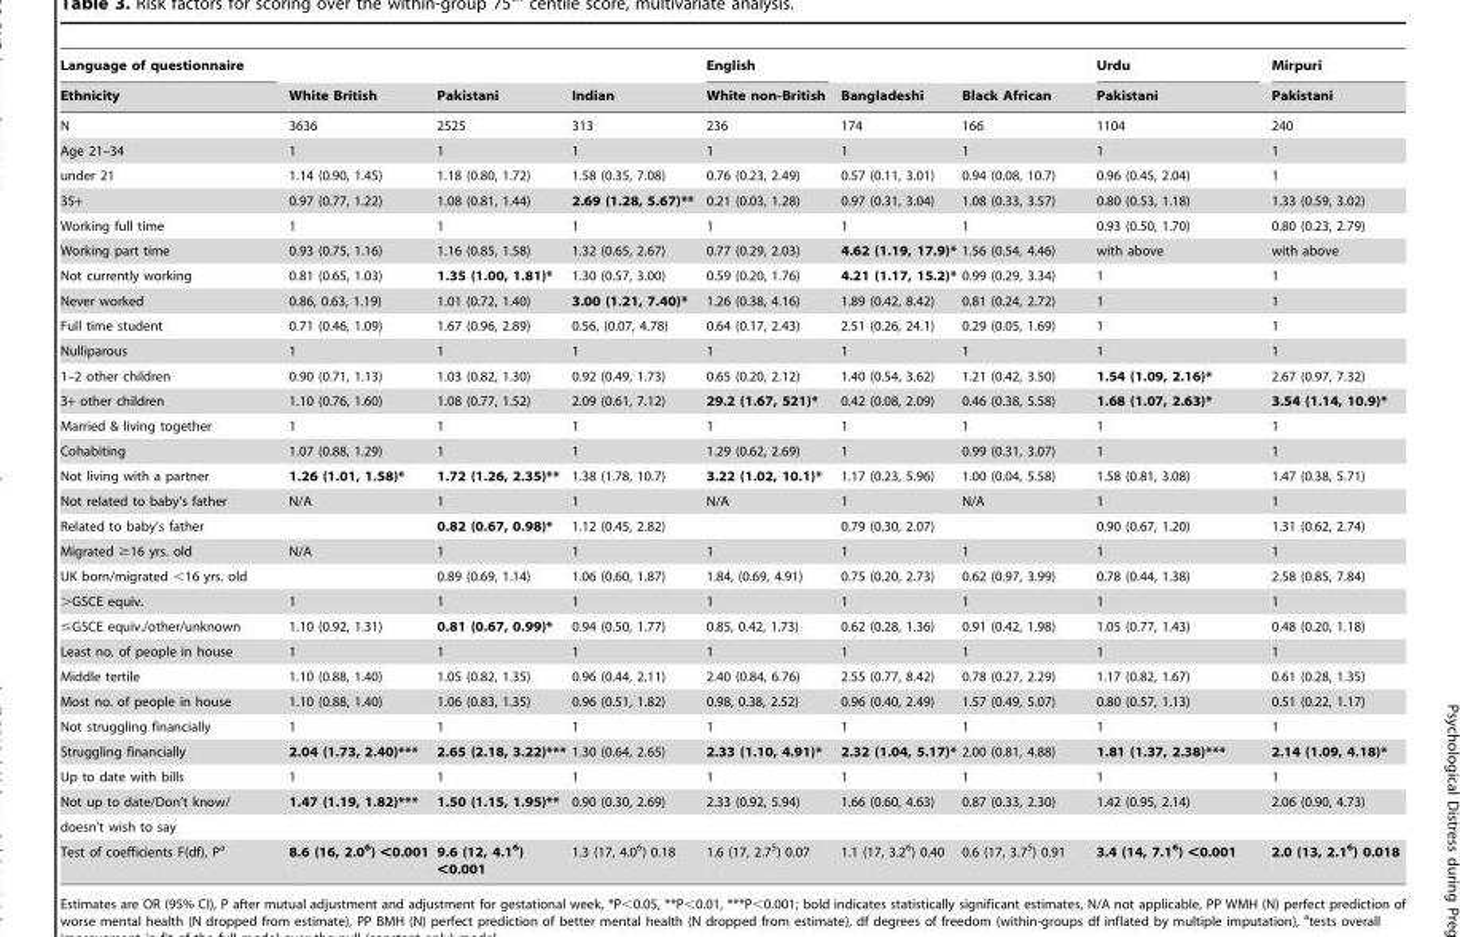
<table><thead><tr><td rowspan="2">Language of questionnaire Ethnicity</td><td rowspan="2">White British</td><td rowspan="2">Pakistani</td><td rowspan="2">Indian</td><td rowspan="2">English White non-British</td><td rowspan="2">Bangladeshi</td><td rowspan="2">Black African</td><td rowspan="2">Urdu Pakistani</td><td rowspan="2">Mirpuri Pakistani</td></tr><tr></tr></thead><tbody><tr><td>N</td><td>3636</td><td>2525</td><td>313</td><td>236</td><td>174</td><td>166</td><td>1104</td><td>240</td></tr><tr><td>Age 21–34</td><td>1</td><td>1</td><td>1</td><td>1</td><td>1</td><td>1</td><td>1</td><td>1</td></tr><tr><td>under 21</td><td>1.14 (0.90, 1.45)</td><td>1.18 (0.80, 1.72)</td><td>1.58 (0.35, 7.08)</td><td>0.76 (0.23, 2.49)</td><td>0.57 (0.11, 3.01)</td><td>0.94 (0.08, 10.7)</td><td>0.96 (0.45, 2.04)</td><td>1</td></tr><tr><td>35+</td><td>0.97 (0.77, 1.22)</td><td>1.08 (0.81, 1.44)</td><td>2.69 (1.28, 5.67)**</td><td>0.21 (0.03, 1.28)</td><td>0.97 (0.31, 3.04)</td><td>1.08 (0.33, 3.57)</td><td>0.80 (0.53, 1.18)</td><td>1.33 (0.59, 3.02)</td></tr><tr><td>Working full time</td><td>1</td><td>1</td><td>1</td><td>1</td><td>1</td><td>1</td><td>0.93 (0.50, 1.70)</td><td>0.80 (0.23, 2.79)</td></tr><tr><td>Working part time</td><td>0.93 (0.75, 1.16)</td><td>1.16 (0.85, 1.58)</td><td>1.32 (0.65, 2.67)</td><td>0.77 (0.29, 2.03)</td><td>4.62 (1.19, 17.9)*</td><td>1.56 (0.54, 4.46)</td><td>with above</td><td>with above</td></tr><tr><td>Not currently working</td><td>0.81 (0.65, 1.03)</td><td>1.35 (1.00, 1.81)*</td><td>1.30 (0.57, 3.00)</td><td>0.59 (0.20, 1.76)</td><td>4.21 (1.17, 15.2)*</td><td>0.99 (0.29, 3.34)</td><td>1</td><td>1</td></tr><tr><td>Never worked</td><td>0.86, 0.63, 1.19)</td><td>1.01 (0.72, 1.40)</td><td>3.00 (1.21, 7.40)*</td><td>1.26 (0.38, 4.16)</td><td>1.89 (0.42, 8.42)</td><td>0.81 (0.24, 2.72)</td><td>1</td><td>1</td></tr><tr><td>Full time student</td><td>0.71 (0.46, 1.09)</td><td>1.67 (0.96, 2.89)</td><td>0.56, (0.07, 4.78)</td><td>0.64 (0.17, 2.43)</td><td>2.51 (0.26, 24.1)</td><td>0.29 (0.05, 1.69)</td><td>1</td><td>1</td></tr><tr><td>Nulliparous</td><td>1</td><td>1</td><td>1</td><td>1</td><td>1</td><td>1</td><td>1</td><td>1</td></tr><tr><td>1–2 other children</td><td>0.90 (0.71, 1.13)</td><td>1.03 (0.82, 1.30)</td><td>0.92 (0.49, 1.73)</td><td>0.65 (0.20, 2.12)</td><td>1.40 (0.54, 3.62)</td><td>1.21 (0.42, 3.50)</td><td>1.54 (1.09, 2.16)*</td><td>2.67 (0.97, 7.32)</td></tr><tr><td>3+ other children</td><td>1.10 (0.76, 1.60)</td><td>1.08 (0.77, 1.52)</td><td>2.09 (0.61, 7.12)</td><td>29.2 (1.67, 521)*</td><td>0.42 (0.08, 2.09)</td><td>0.46 (0.38, 5.58)</td><td>1.68 (1.07, 2.63)*</td><td>3.54 (1.14, 10.9)*</td></tr><tr><td>Married &amp; living together</td><td>1</td><td>1</td><td>1</td><td>1</td><td>1</td><td>1</td><td>1</td><td>1</td></tr><tr><td>Cohabiting</td><td>1.07 (0.88, 1.29)</td><td>1</td><td>1</td><td>1.29 (0.62, 2.69)</td><td>1</td><td>0.99 (0.31, 3.07)</td><td>1</td><td>1</td></tr><tr><td>Not living with a partner</td><td>1.26 (1.01, 1.58)*</td><td>1.72 (1.26, 2.35)**</td><td>1.38 (1.78, 10.7)</td><td>3.22 (1.02, 10.1)*</td><td>1.17 (0.23, 5.96)</td><td>1.00 (0.04, 5.58)</td><td>1.58 (0.81, 3.08)</td><td>1.47 (0.38, 5.71)</td></tr><tr><td>Not related to baby’s father</td><td>N/A</td><td>1</td><td>1</td><td>N/A</td><td>1</td><td>N/A</td><td>1</td><td>1</td></tr><tr><td>Related to baby’s father</td><td></td><td>0.82 (0.67, 0.98)*</td><td>1.12 (0.45, 2.82)</td><td></td><td>0.79 (0.30, 2.07)</td><td></td><td>0.90 (0.67, 1.20)</td><td>1.31 (0.62, 2.74)</td></tr><tr><td>Migrated ≥16 yrs. old</td><td>N/A</td><td>1</td><td>1</td><td>1</td><td>1</td><td>1</td><td>1</td><td>1</td></tr><tr><td>UK born/migrated &lt;16 yrs. old</td><td></td><td>0.89 (0.69, 1.14)</td><td>1.06 (0.60, 1.87)</td><td>1.84, (0.69, 4.91)</td><td>0.75 (0.20, 2.73)</td><td>0.62 (0.97, 3.99)</td><td>0.78 (0.44, 1.38)</td><td>2.58 (0.85, 7.84)</td></tr><tr><td>&gt;GSCE equiv.</td><td>1</td><td>1</td><td>1</td><td>1</td><td>1</td><td>1</td><td>1</td><td>1</td></tr><tr><td>≤GSCE equiv./other/unknown</td><td>1.10 (0.92, 1.31)</td><td>0.81 (0.67, 0.99)*</td><td>0.94 (0.50, 1.77)</td><td>0.85, 0.42, 1.73)</td><td>0.62 (0.28, 1.36)</td><td>0.91 (0.42, 1.98)</td><td>1.05 (0.77, 1.43)</td><td>0.48 (0.20, 1.18)</td></tr><tr><td>Least no. of people in house</td><td>1</td><td>1</td><td>1</td><td>1</td><td>1</td><td>1</td><td>1</td><td>1</td></tr><tr><td>Middle tertile</td><td>1.10 (0.88, 1.40)</td><td>1.05 (0.82, 1.35)</td><td>0.96 (0.44, 2.11)</td><td>2.40 (0.84, 6.76)</td><td>2.55 (0.77, 8.42)</td><td>0.78 (0.27, 2.29)</td><td>1.17 (0.82, 1.67)</td><td>0.61 (0.28, 1.35)</td></tr><tr><td>Most no. of people in house</td><td>1.10 (0.88, 1.40)</td><td>1.06 (0.83, 1.35)</td><td>0.96 (0.51, 1.82)</td><td>0.98, 0.38, 2.52)</td><td>0.96 (0.40, 2.49)</td><td>1.57 (0.49, 5.07)</td><td>0.80 (0.57, 1.13)</td><td>0.51 (0.22, 1.17)</td></tr><tr><td>Not struggling financially</td><td>1</td><td>1</td><td>1</td><td>1</td><td>1</td><td>1</td><td>1</td><td>1</td></tr><tr><td>Struggling financially</td><td>2.04 (1.73, 2.40)***</td><td>2.65 (2.18, 3.22)***</td><td>1.30 (0.64, 2.65)</td><td>2.33 (1.10, 4.91)*</td><td>2.32 (1.04, 5.17)*</td><td>2.00 (0.81, 4.88)</td><td>1.81 (1.37, 2.38)***</td><td>2.14 (1.09, 4.18)*</td></tr><tr><td>Up to date with bills</td><td>1</td><td>1</td><td>1</td><td>1</td><td>1</td><td>1</td><td>1</td><td>1</td></tr><tr><td>Not up to date/Don’t know/</td><td>1.47 (1.19, 1.82)***</td><td>1.50 (1.15, 1.95)**</td><td>0.90 (0.30, 2.69)</td><td>2.33 (0.92, 5.94)</td><td>1.66 (0.60, 4.63)</td><td>0.87 (0.33, 2.30)</td><td>1.42 (0.95, 2.14)</td><td>2.06 (0.90, 4.73)</td></tr><tr><td colspan="9">doesn’t wish to say</td></tr><tr><td>Test of coefficients F(df), P<sup>a</sup></td><td>8.6 (16, 2.0<sup>6</sup>) &lt;0.001</td><td>9.6 (12, 4.1<sup>6</sup>) &lt;0.001</td><td>1.3 (17, 4.0<sup>6</sup>) 0.18</td><td>1.6 (17, 2.7<sup>5</sup>) 0.07</td><td>1.1 (17, 3.2<sup>6</sup>) 0.40</td><td>0.6 (17, 3.7<sup>5</sup>) 0.91</td><td>3.4 (14, 7.1<sup>6</sup>) &lt;0.001</td><td>2.0 (13, 2.1<sup>6</sup>) 0.018</td></tr></tbody></table>